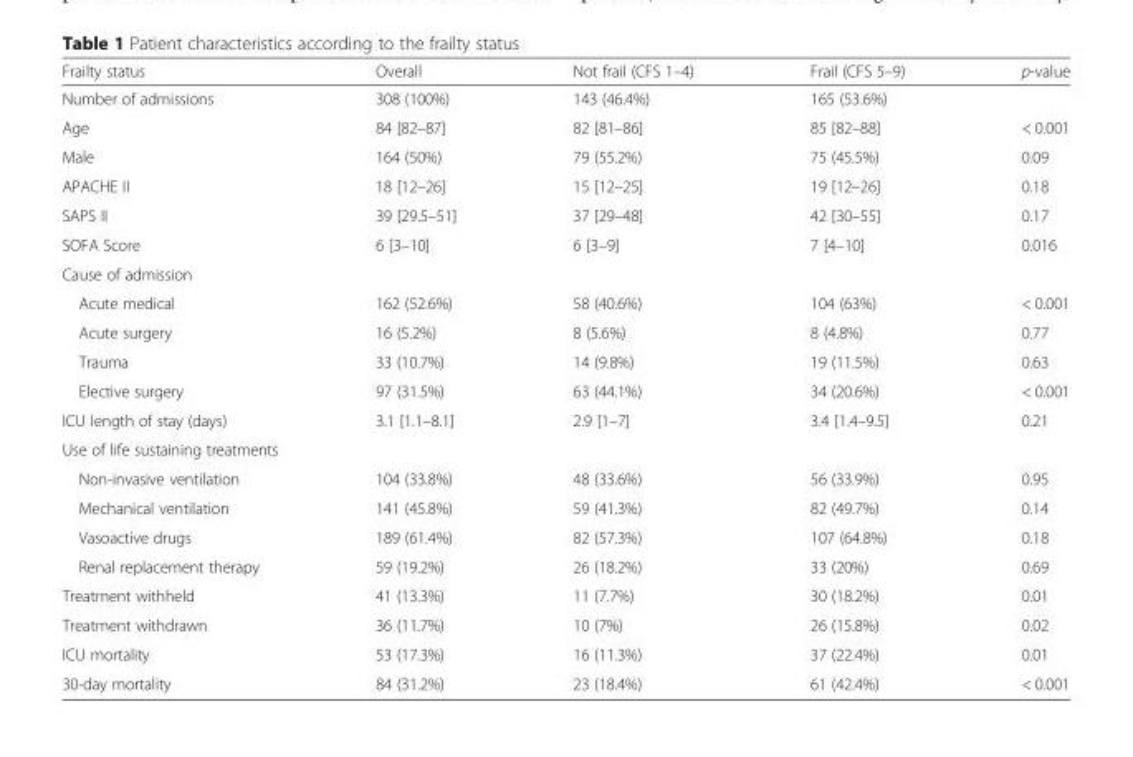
<table><thead><tr><td>Frailty status</td><td>Overall</td><td>Not frail (CFS 1–4)</td><td>Frail (CFS 5–9)</td><td>p-value</td></tr></thead><tbody><tr><td>Number of admissions</td><td>308 (100%)</td><td>143 (46.4%)</td><td>165 (53.6%)</td><td></td></tr><tr><td>Age</td><td>84 [82–87]</td><td>82 [81–86]</td><td>85 [82–88]</td><td>&lt; 0.001</td></tr><tr><td>Male</td><td>164 (50%)</td><td>79 (55.2%)</td><td>75 (45.5%)</td><td>0.09</td></tr><tr><td>APACHE II</td><td>18 [12–26]</td><td>15 [12–25]</td><td>19 [12–26]</td><td>0.18</td></tr><tr><td>SAPS II</td><td>39 [29.5–51]</td><td>37 [29–48]</td><td>42 [30–55]</td><td>0.17</td></tr><tr><td>SOFA Score</td><td>6 [3–10]</td><td>6 [3–9]</td><td>7 [4–10]</td><td>0.016</td></tr><tr><td colspan="5">Cause of admission</td></tr><tr><td>Acute medical</td><td>162 (52.6%)</td><td>58 (40.6%)</td><td>104 (63%)</td><td>&lt; 0.001</td></tr><tr><td>Acute surgery</td><td>16 (5.2%)</td><td>8 (5.6%)</td><td>8 (4.8%)</td><td>0.77</td></tr><tr><td>Trauma</td><td>33 (10.7%)</td><td>14 (9.8%)</td><td>19 (11.5%)</td><td>0.63</td></tr><tr><td>Elective surgery</td><td>97 (31.5%)</td><td>63 (44.1%)</td><td>34 (20.6%)</td><td>&lt; 0.001</td></tr><tr><td>ICU length of stay (days)</td><td>3.1 [1.1–8.1]</td><td>2.9 [1–7]</td><td>3.4 [1.4–9.5]</td><td>0.21</td></tr><tr><td colspan="5">Use of life sustaining treatments</td></tr><tr><td>Non-invasive ventilation</td><td>104 (33.8%)</td><td>48 (33.6%)</td><td>56 (33.9%)</td><td>0.95</td></tr><tr><td>Mechanical ventilation</td><td>141 (45.8%)</td><td>59 (41.3%)</td><td>82 (49.7%)</td><td>0.14</td></tr><tr><td>Vasoactive drugs</td><td>189 (61.4%)</td><td>82 (57.3%)</td><td>107 (64.8%)</td><td>0.18</td></tr><tr><td>Renal replacement therapy</td><td>59 (19.2%)</td><td>26 (18.2%)</td><td>33 (20%)</td><td>0.69</td></tr><tr><td>Treatment withheld</td><td>41 (13.3%)</td><td>11 (7.7%)</td><td>30 (18.2%)</td><td>0.01</td></tr><tr><td>Treatment withdrawn</td><td>36 (11.7%)</td><td>10 (7%)</td><td>26 (15.8%)</td><td>0.02</td></tr><tr><td>ICU mortality</td><td>53 (17.3%)</td><td>16 (11.3%)</td><td>37 (22.4%)</td><td>0.01</td></tr><tr><td>30-day mortality</td><td>84 (31.2%)</td><td>23 (18.4%)</td><td>61 (42.4%)</td><td>&lt; 0.001</td></tr></tbody></table>